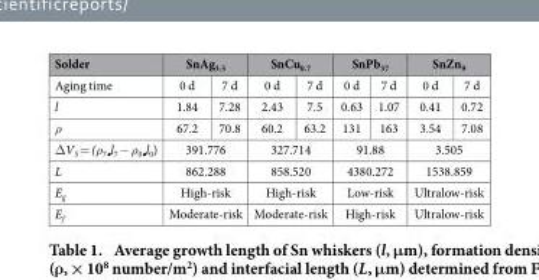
<table><thead><tr><td rowspan="2">Solder Aging time</td><td colspan="2">SnAg<sub>3.5</sub></td><td colspan="2">SnCu<sub>0.7</sub></td><td colspan="2">SnPb<sub>37</sub></td><td colspan="2">SnZn<sub>9</sub></td></tr><tr><td>0 d</td><td>7 d</td><td>0 d</td><td>7 d</td><td>0 d</td><td>7 d</td><td>0 d</td><td>7 d</td></tr></thead><tbody><tr><td>l</td><td>1.84</td><td>7.28</td><td>2.43</td><td>7.5</td><td>0.63</td><td>1.07</td><td>0.41</td><td>0.72</td></tr><tr><td>ρ</td><td>67.2</td><td>70.8</td><td>60.2</td><td>63.2</td><td>131</td><td>163</td><td>3.54</td><td>7.08</td></tr><tr><td>Δ V<sub>S</sub> = (ρ<sub>7•</sub>l<sub>7</sub> − ρ<sub>0•</sub>l<sub>0</sub>)</td><td colspan="2">391.776</td><td colspan="2">327.714</td><td colspan="2">91.88</td><td colspan="2">3.505</td></tr><tr><td>L</td><td colspan="2">862.288</td><td colspan="2">858.520</td><td colspan="2">4380.272</td><td colspan="2">1538.859</td></tr><tr><td>E<sub>g</sub></td><td colspan="2">High-risk</td><td colspan="2">High-risk</td><td colspan="2">Low-risk</td><td colspan="2">Ultralow-risk</td></tr><tr><td>E<sub>f</sub></td><td colspan="2">Moderate-risk</td><td colspan="2">Moderate-risk</td><td colspan="2">High-risk</td><td colspan="2">Ultralow-risk</td></tr></tbody></table>